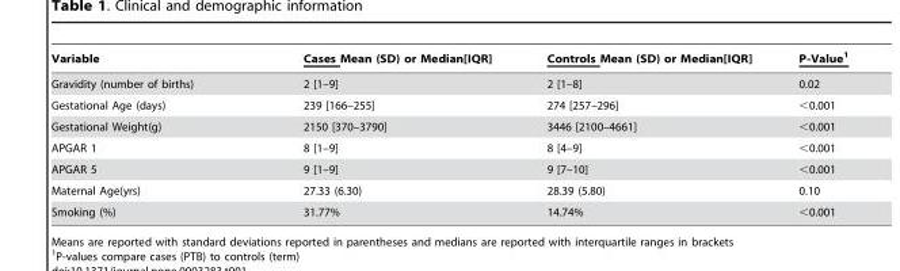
<table><thead><tr><td>Variable</td><td>Cases Mean (SD) or Median[IQR]</td><td>Controls Mean (SD) or Median[IQR]</td><td>P-Value1</td></tr></thead><tbody><tr><td>Gravidity (number of births)</td><td>2 [1–9]</td><td>2 [1–8]</td><td>0.02</td></tr><tr><td>Gestational Age (days)</td><td>239 [166–255]</td><td>274 [257–296]</td><td>&lt;0.001</td></tr><tr><td>Gestational Weight(g)</td><td>2150 [370–3790]</td><td>3446 [2100–4661]</td><td>&lt;0.001</td></tr><tr><td>APGAR 1</td><td>8 [1–9]</td><td>8 [4–9]</td><td>&lt;0.001</td></tr><tr><td>APGAR 5</td><td>9 [1–9]</td><td>9 [7–10]</td><td>&lt;0.001</td></tr><tr><td>Maternal Age(yrs)</td><td>27.33 (6.30)</td><td>28.39 (5.80)</td><td>0.10</td></tr><tr><td>Smoking (%)</td><td>31.77%</td><td>14.74%</td><td>&lt;0.001</td></tr></tbody></table>